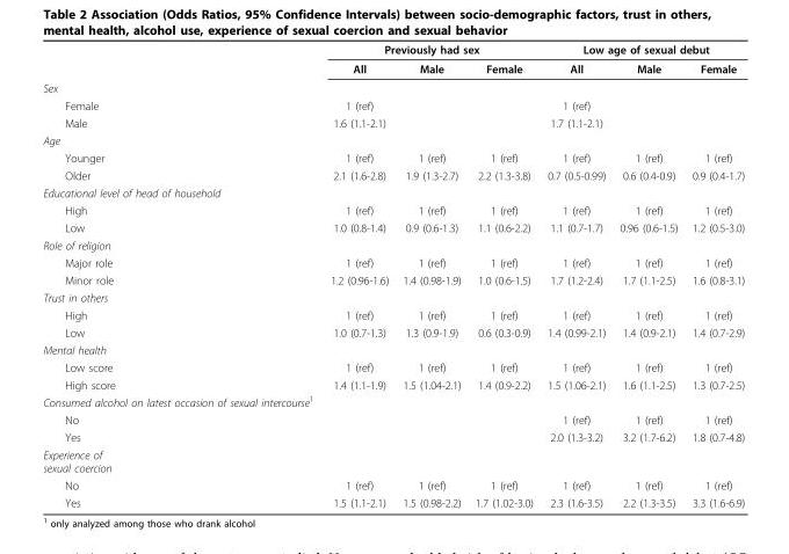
<table><thead><tr><td rowspan="2"></td><td colspan="3">Previously had sex</td><td colspan="3">Low age of sexual debut</td></tr><tr><td>All</td><td>Male</td><td>Female</td><td>All</td><td>Male</td><td>Female</td></tr></thead><tbody><tr><td colspan="7">Sex</td></tr><tr><td>Female</td><td>1 (ref)</td><td></td><td></td><td>1 (ref)</td><td></td><td></td></tr><tr><td>Male</td><td>1.6 (1.1-2.1)</td><td></td><td></td><td>1.7 (1.1-2.1)</td><td></td><td></td></tr><tr><td colspan="7">Age</td></tr><tr><td>Younger</td><td>1 (ref)</td><td>1 (ref)</td><td>1 (ref)</td><td>1 (ref)</td><td>1 (ref)</td><td>1 (ref)</td></tr><tr><td>Older</td><td>2.1 (1.6-2.8)</td><td>1.9 (1.3-2.7)</td><td>2.2 (1.3-3.8)</td><td>0.7 (0.5-0.99)</td><td>0.6 (0.4-0.9)</td><td>0.9 (0.4-1.7)</td></tr><tr><td colspan="7">Educational level of head of household</td></tr><tr><td>High</td><td>1 (ref)</td><td>1 (ref)</td><td>1 (ref)</td><td>1 (ref)</td><td>1 (ref)</td><td>1 (ref)</td></tr><tr><td>Low</td><td>1.0 (0.8-1.4)</td><td>0.9 (0.6-1.3)</td><td>1.1 (0.6-2.2)</td><td>1.1 (0.7-1.7)</td><td>0.96 (0.6-1.5)</td><td>1.2 (0.5-3.0)</td></tr><tr><td colspan="7">Role of religion</td></tr><tr><td>Major role</td><td>1 (ref)</td><td>1 (ref)</td><td>1 (ref)</td><td>1 (ref)</td><td>1 (ref)</td><td>1 (ref)</td></tr><tr><td>Minor role</td><td>1.2 (0.96-1.6)</td><td>1.4 (0.98-1.9)</td><td>1.0 (0.6-1.5)</td><td>1.7 (1.2-2.4)</td><td>1.7 (1.1-2.5)</td><td>1.6 (0.8-3.1)</td></tr><tr><td colspan="7">Trust in others</td></tr><tr><td>High</td><td>1 (ref)</td><td>1 (ref)</td><td>1 (ref)</td><td>1 (ref)</td><td>1 (ref)</td><td>1 (ref)</td></tr><tr><td>Low</td><td>1.0 (0.7-1.3)</td><td>1.3 (0.9-1.9)</td><td>0.6 (0.3-0.9)</td><td>1.4 (0.99-2.1)</td><td>1.4 (0.9-2.1)</td><td>1.4 (0.7-2.9)</td></tr><tr><td colspan="7">Mental health</td></tr><tr><td>Low score</td><td>1 (ref)</td><td>1 (ref)</td><td>1 (ref)</td><td>1 (ref)</td><td>1 (ref)</td><td>1 (ref)</td></tr><tr><td>High score</td><td>1.4 (1.1-1.9)</td><td>1.5 (1.04-2.1)</td><td>1.4 (0.9-2.2)</td><td>1.5 (1.06-2.1)</td><td>1.6 (1.1-2.5)</td><td>1.3 (0.7-2.5)</td></tr><tr><td colspan="7">Consumed alcohol on latest occasion of sexual intercourse<sup>1</sup></td></tr><tr><td>No</td><td></td><td></td><td></td><td>1 (ref)</td><td>1 (ref)</td><td>1 (ref)</td></tr><tr><td>Yes</td><td></td><td></td><td></td><td>2.0 (1.3-3.2)</td><td>3.2 (1.7-6.2)</td><td>1.8 (0.7-4.8)</td></tr><tr><td colspan="7">Experience of sexual coercion</td></tr><tr><td>No</td><td>1 (ref)</td><td>1 (ref)</td><td>1 (ref)</td><td>1 (ref)</td><td>1 (ref)</td><td>1 (ref)</td></tr><tr><td>Yes</td><td>1.5 (1.1-2.1)</td><td>1.5 (0.98-2.2)</td><td>1.7 (1.02-3.0)</td><td>2.3 (1.6-3.5)</td><td>2.2 (1.3-3.5)</td><td>3.3 (1.6-6.9)</td></tr></tbody></table>